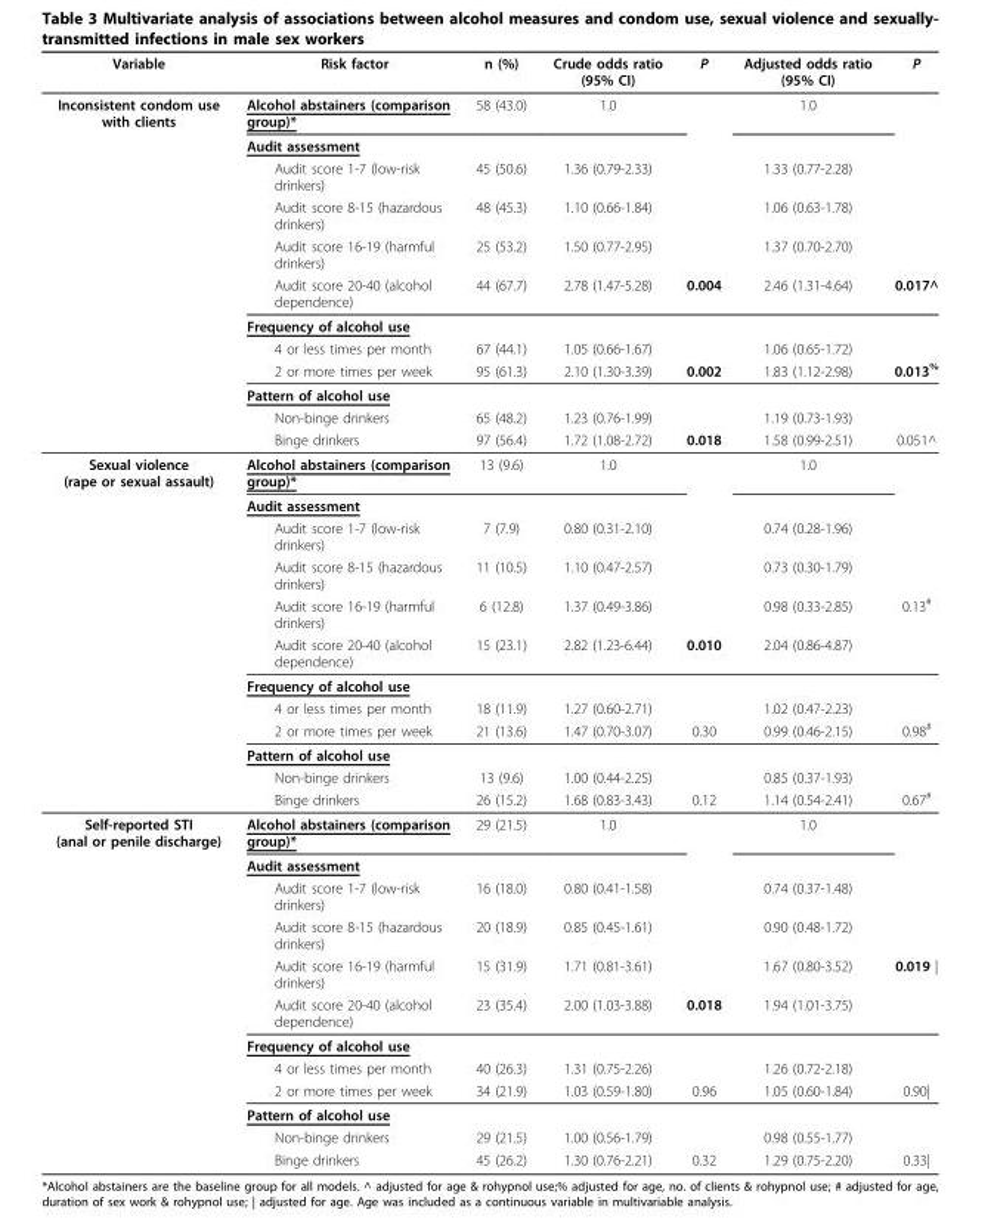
<table><thead><tr><td>Variable</td><td>Risk factor</td><td>n (%)</td><td>Crude odds ratio (95% CI)</td><td>P</td><td>Adjusted odds ratio (95% CI)</td><td>P</td></tr></thead><tbody><tr><td rowspan="12">Inconsistent condom use with clients</td><td>Alcohol abstainers (comparison group)*</td><td>58 (43.0)</td><td>1.0</td><td></td><td>1.0</td><td></td></tr><tr><td>Audit assessment</td><td></td><td></td><td></td><td></td><td></td></tr><tr><td>Audit score 1-7 (low-risk drinkers)</td><td>45 (50.6)</td><td>1.36 (0.79-2.33)</td><td></td><td>1.33 (0.77-2.28)</td><td></td></tr><tr><td>Audit score 8-15 (hazardous drinkers)</td><td>48 (45.3)</td><td>1.10 (0.66-1.84)</td><td></td><td>1.06 (0.63-1.78)</td><td></td></tr><tr><td>Audit score 16-19 (harmful drinkers)</td><td>25 (53.2)</td><td>1.50 (0.77-2.95)</td><td></td><td>1.37 (0.70-2.70)</td><td></td></tr><tr><td>Audit score 20-40 (alcohol dependence)</td><td>44 (67.7)</td><td>2.78 (1.47-5.28)</td><td>0.004</td><td>2.46 (1.31-4.64)</td><td>0.017^</td></tr><tr><td>Frequency of alcohol use</td><td></td><td></td><td></td><td></td><td></td></tr><tr><td>4 or less times per month</td><td>67 (44.1)</td><td>1.05 (0.66-1.67)</td><td></td><td>1.06 (0.65-1.72)</td><td></td></tr><tr><td>2 or more times per week</td><td>95 (61.3)</td><td>2.10 (1.30-3.39)</td><td>0.002</td><td>1.83 (1.12-2.98)</td><td>0.013<sup>%</sup></td></tr><tr><td>Pattern of alcohol use</td><td></td><td></td><td></td><td></td><td></td></tr><tr><td>Non-binge drinkers</td><td>65 (48.2)</td><td>1.23 (0.76-1.99)</td><td></td><td>1.19 (0.73-1.93)</td><td></td></tr><tr><td>Binge drinkers</td><td>97 (56.4)</td><td>1.72 (1.08-2.72)</td><td>0.018</td><td>1.58 (0.99-2.51)</td><td>0.051^</td></tr><tr><td rowspan="12">Sexual violence (rape or sexual assault)</td><td>Alcohol abstainers (comparison group)*</td><td>13 (9.6)</td><td>1.0</td><td></td><td>1.0</td><td></td></tr><tr><td>Audit assessment</td><td></td><td></td><td></td><td></td><td></td></tr><tr><td>Audit score 1-7 (low-risk drinkers)</td><td>7 (7.9)</td><td>0.80 (0.31-2.10)</td><td></td><td>0.74 (0.28-1.96)</td><td></td></tr><tr><td>Audit score 8-15 (hazardous drinkers)</td><td>11 (10.5)</td><td>1.10 (0.47-2.57)</td><td></td><td>0.73 (0.30-1.79)</td><td></td></tr><tr><td>Audit score 16-19 (harmful drinkers)</td><td>6 (12.8)</td><td>1.37 (0.49-3.86)</td><td></td><td>0.98 (0.33-2.85)</td><td>0.13<sup>#</sup></td></tr><tr><td>Audit score 20-40 (alcohol dependence)</td><td>15 (23.1)</td><td>2.82 (1.23-6.44)</td><td>0.010</td><td>2.04 (0.86-4.87)</td><td></td></tr><tr><td>Frequency of alcohol use</td><td></td><td></td><td></td><td></td><td></td></tr><tr><td>4 or less times per month</td><td>18 (11.9)</td><td>1.27 (0.60-2.71)</td><td></td><td>1.02 (0.47-2.23)</td><td></td></tr><tr><td>2 or more times per week</td><td>21 (13.6)</td><td>1.47 (0.70-3.07)</td><td>0.30</td><td>0.99 (0.46-2.15)</td><td>0.98<sup>#</sup></td></tr><tr><td>Pattern of alcohol use</td><td></td><td></td><td></td><td></td><td></td></tr><tr><td>Non-binge drinkers</td><td>13 (9.6)</td><td>1.00 (0.44-2.25)</td><td></td><td>0.85 (0.37-1.93)</td><td></td></tr><tr><td>Binge drinkers</td><td>26 (15.2)</td><td>1.68 (0.83-3.43)</td><td>0.12</td><td>1.14 (0.54-2.41)</td><td>0.67<sup>#</sup></td></tr><tr><td rowspan="12">Self-reported STI (anal or penile discharge)</td><td>Alcohol abstainers (comparison group)*</td><td>29 (21.5)</td><td>1.0</td><td></td><td>1.0</td><td></td></tr><tr><td>Audit assessment</td><td></td><td></td><td></td><td></td><td></td></tr><tr><td>Audit score 1-7 (low-risk drinkers)</td><td>16 (18.0)</td><td>0.80 (0.41-1.58)</td><td></td><td>0.74 (0.37-1.48)</td><td></td></tr><tr><td>Audit score 8-15 (hazardous drinkers)</td><td>20 (18.9)</td><td>0.85 (0.45-1.61)</td><td></td><td>0.90 (0.48-1.72)</td><td></td></tr><tr><td>Audit score 16-19 (harmful drinkers)</td><td>15 (31.9)</td><td>1.71 (0.81-3.61)</td><td></td><td>1.67 (0.80-3.52)</td><td>0.019 |</td></tr><tr><td>Audit score 20-40 (alcohol dependence)</td><td>23 (35.4)</td><td>2.00 (1.03-3.88)</td><td>0.018</td><td>1.94 (1.01-3.75)</td><td></td></tr><tr><td>Frequency of alcohol use</td><td></td><td></td><td></td><td></td><td></td></tr><tr><td>4 or less times per month</td><td>40 (26.3)</td><td>1.31 (0.75-2.26)</td><td></td><td>1.26 (0.72-2.18)</td><td></td></tr><tr><td>2 or more times per week</td><td>34 (21.9)</td><td>1.03 (0.59-1.80)</td><td>0.96</td><td>1.05 (0.60-1.84)</td><td>0.90|</td></tr><tr><td>Pattern of alcohol use</td><td></td><td></td><td></td><td></td><td></td></tr><tr><td>Non-binge drinkers</td><td>29 (21.5)</td><td>1.00 (0.56-1.79)</td><td></td><td>0.98 (0.55-1.77)</td><td></td></tr><tr><td>Binge drinkers</td><td>45 (26.2)</td><td>1.30 (0.76-2.21)</td><td>0.32</td><td>1.29 (0.75-2.20)</td><td>0.33|</td></tr></tbody></table>